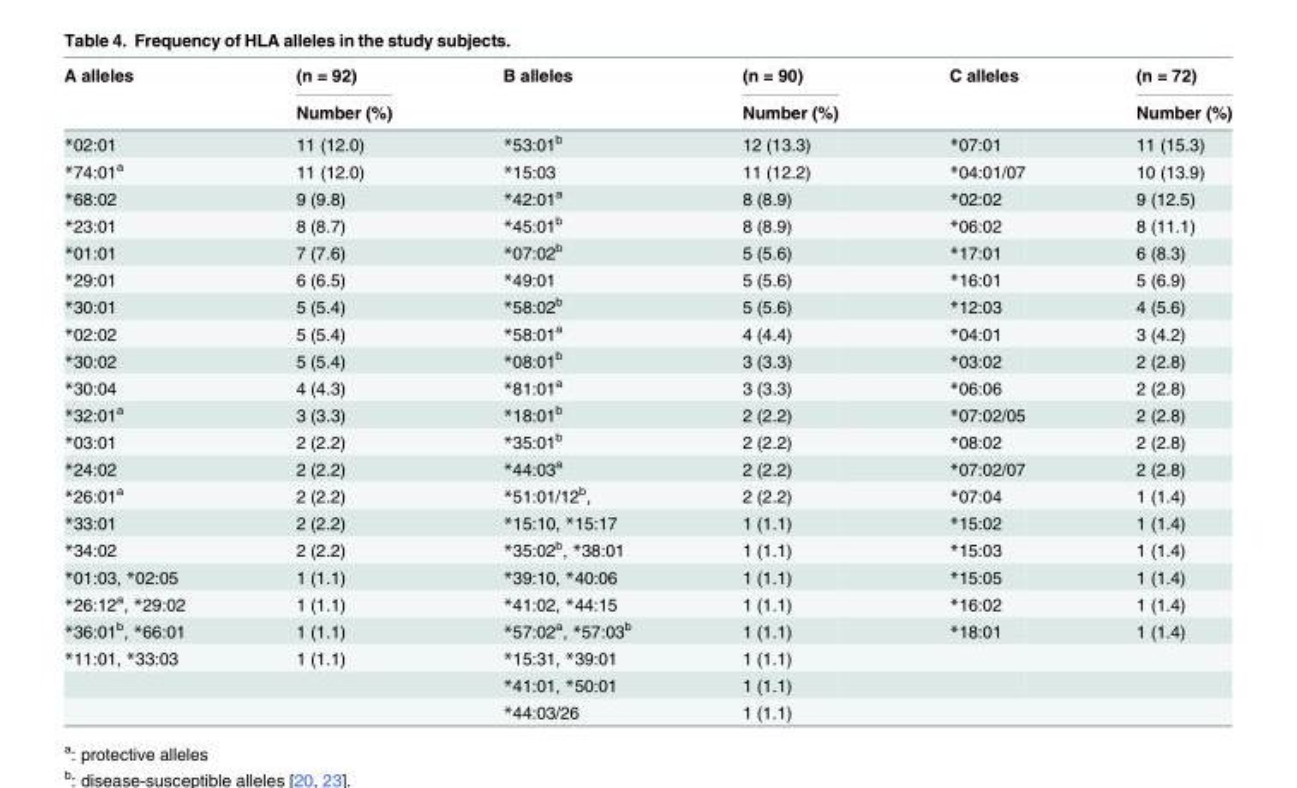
<table><thead><tr><td rowspan="2">A alleles</td><td rowspan="2">(n = 92) Number (%)</td><td rowspan="2">B alleles</td><td rowspan="2">(n = 90) Number (%)</td><td rowspan="2">C alleles</td><td rowspan="2">(n = 72) Number (%)</td></tr><tr></tr></thead><tbody><tr><td>*02:01</td><td>11 (12.0)</td><td>*53:01<sup>b</sup></td><td>12 (13.3)</td><td>*07:01</td><td>11 (15.3)</td></tr><tr><td>*74:01<sup>a</sup></td><td>11 (12.0)</td><td>*15:03</td><td>11 (12.2)</td><td>*04:01/07</td><td>10 (13.9)</td></tr><tr><td>*68:02</td><td>9 (9.8)</td><td>*42:01<sup>a</sup></td><td>8 (8.9)</td><td>*02:02</td><td>9 (12.5)</td></tr><tr><td>*23:01</td><td>8 (8.7)</td><td>*45:01<sup>b</sup></td><td>8 (8.9)</td><td>*06:02</td><td>8 (11.1)</td></tr><tr><td>*01:01</td><td>7 (7.6)</td><td>*07:02<sup>b</sup></td><td>5 (5.6)</td><td>*17:01</td><td>6 (8.3)</td></tr><tr><td>*29:01</td><td>6 (6.5)</td><td>*49:01</td><td>5 (5.6)</td><td>*16:01</td><td>5 (6.9)</td></tr><tr><td>*30:01</td><td>5 (5.4)</td><td>*58:02<sup>b</sup></td><td>5 (5.6)</td><td>*12:03</td><td>4 (5.6)</td></tr><tr><td>*02:02</td><td>5 (5.4)</td><td>*58:01<sup>a</sup></td><td>4 (4.4)</td><td>*04:01</td><td>3 (4.2)</td></tr><tr><td>*30:02</td><td>5 (5.4)</td><td>*08:01<sup>b</sup></td><td>3 (3.3)</td><td>*03:02</td><td>2 (2.8)</td></tr><tr><td>*30:04</td><td>4 (4.3)</td><td>*81:01<sup>a</sup></td><td>3 (3.3)</td><td>*06:06</td><td>2 (2.8)</td></tr><tr><td>*32:01<sup>a</sup></td><td>3 (3.3)</td><td>*18:01<sup>b</sup></td><td>2 (2.2)</td><td>*07:02/05</td><td>2 (2.8)</td></tr><tr><td>*03:01</td><td>2 (2.2)</td><td>*35:01<sup>b</sup></td><td>2 (2.2)</td><td>*08:02</td><td>2 (2.8)</td></tr><tr><td>*24:02</td><td>2 (2.2)</td><td>*44:03<sup>a</sup></td><td>2 (2.2)</td><td>*07:02/07</td><td>2 (2.8)</td></tr><tr><td>*26:01<sup>a</sup></td><td>2 (2.2)</td><td>*51:01/12<sup>b</sup>,</td><td>2 (2.2)</td><td>*07:04</td><td>1 (1.4)</td></tr><tr><td>*33:01</td><td>2 (2.2)</td><td>*15:10, *15:17</td><td>1 (1.1)</td><td>*15:02</td><td>1 (1.4)</td></tr><tr><td>*34:02</td><td>2 (2.2)</td><td>*35:02<sup>b</sup>, *38:01</td><td>1 (1.1)</td><td>*15:03</td><td>1 (1.4)</td></tr><tr><td>*01:03, *02:05</td><td>1 (1.1)</td><td>*39:10, *40:06</td><td>1 (1.1)</td><td>*15:05</td><td>1 (1.4)</td></tr><tr><td>*26:12<sup>a</sup>, *29:02</td><td>1 (1.1)</td><td>*41:02, *44:15</td><td>1 (1.1)</td><td>*16:02</td><td>1 (1.4)</td></tr><tr><td>*36:01<sup>b</sup>, *66:01</td><td>1 (1.1)</td><td>*57:02<sup>a</sup>, *57:03<sup>b</sup></td><td>1 (1.1)</td><td>*18:01</td><td>1 (1.4)</td></tr><tr><td rowspan="3">*11:01, *33:03</td><td>1 (1.1)</td><td>*15:31, *39:01</td><td>1 (1.1)</td><td></td><td></td></tr><tr><td></td><td>*41:01, *50:01</td><td>1 (1.1)</td><td></td><td></td></tr><tr><td></td><td>*44:03/26</td><td>1 (1.1)</td><td></td><td></td></tr></tbody></table>